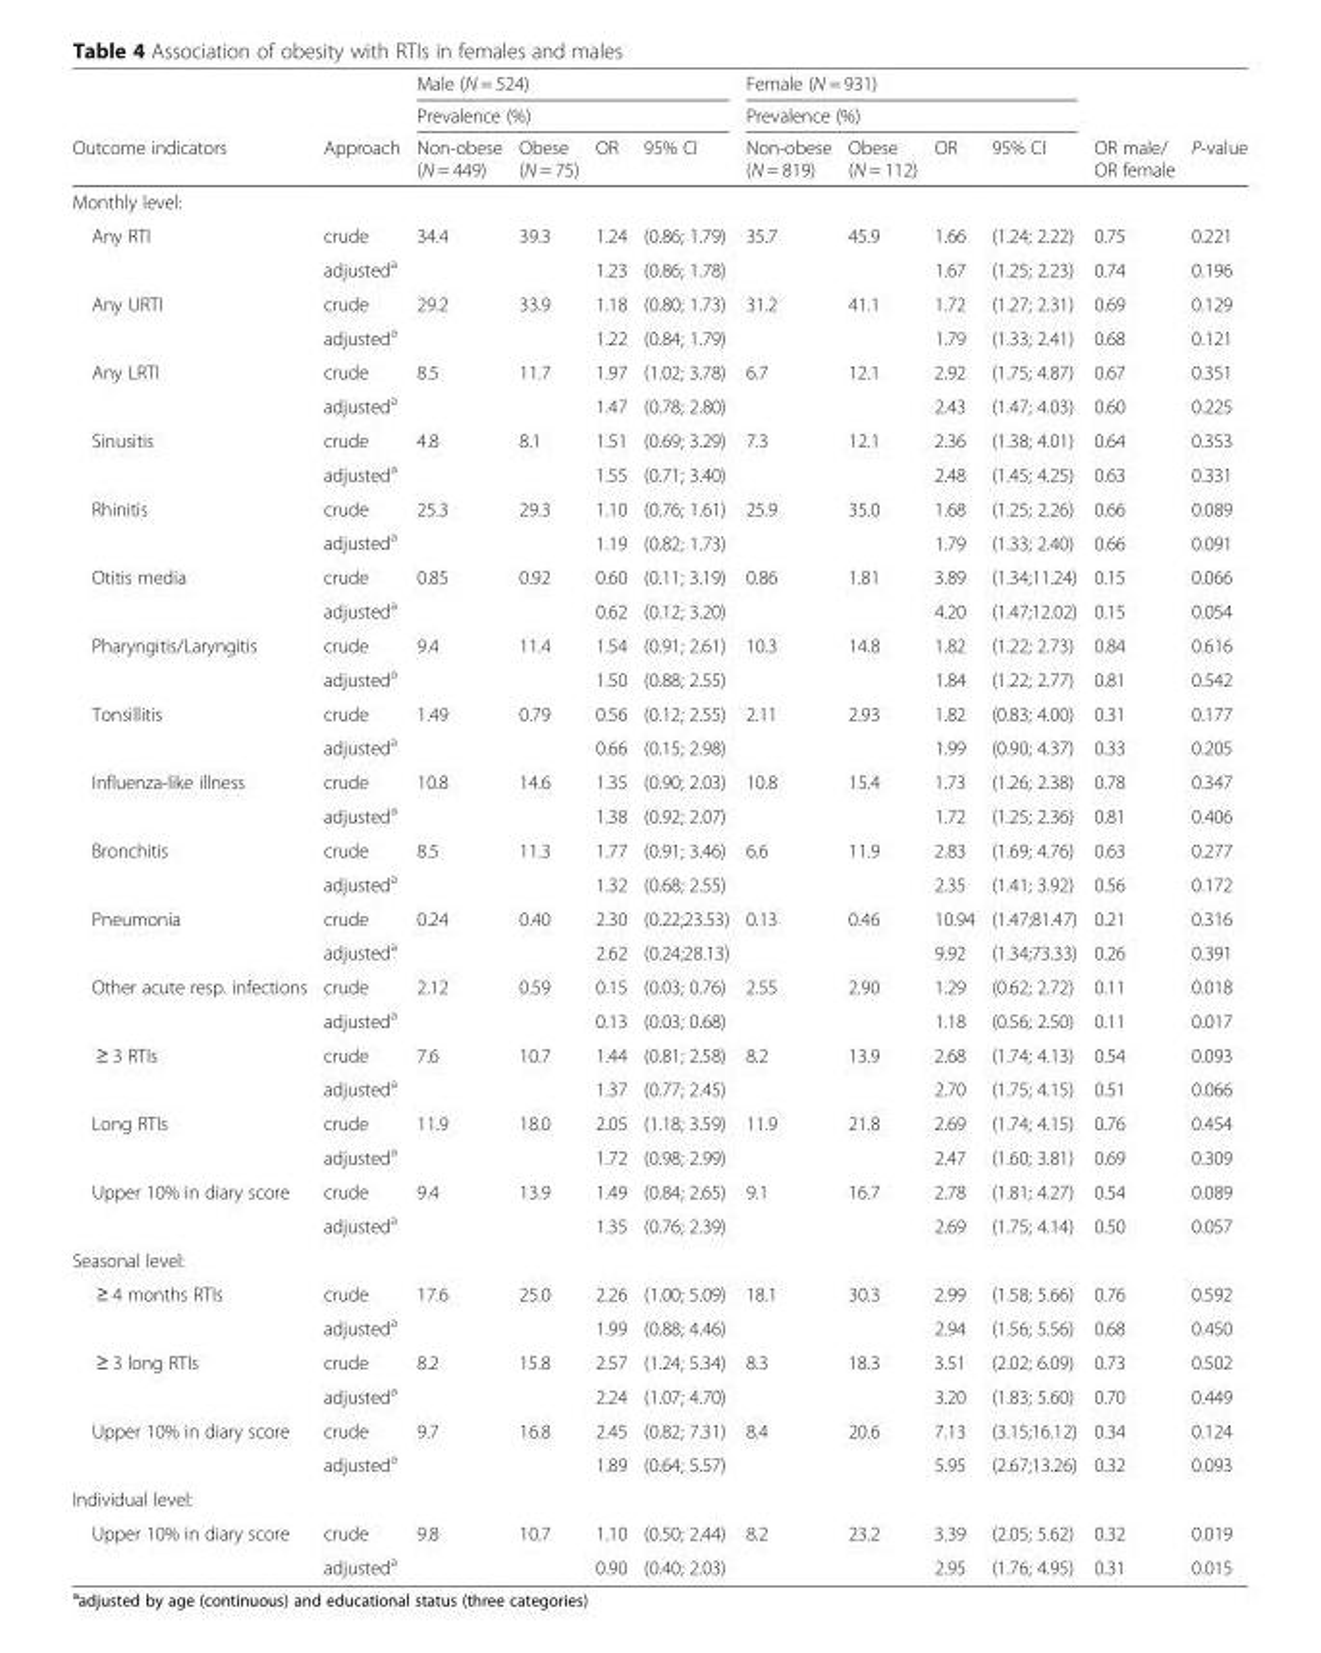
<table><thead><tr><td rowspan="3">Outcome indicators</td><td rowspan="3">Approach</td><td rowspan="2" colspan="4">Male (N = 524) Prevalence (%)</td><td rowspan="2" colspan="4">Female (N = 931) Prevalence (%)</td><td rowspan="3">OR male/ OR female</td><td rowspan="3">P-value</td></tr><tr></tr><tr><td>Non-obese (N = 449)</td><td>Obese (N = 75)</td><td>OR</td><td>95% CI</td><td>Non-obese (N = 819)</td><td>Obese (N = 112)</td><td>OR</td><td>95% CI</td></tr></thead><tbody><tr><td colspan="12">Monthly level:</td></tr><tr><td rowspan="2">Any RTI</td><td>crude</td><td>34.4</td><td>39.3</td><td>1.24</td><td>(0.86; 1.79)</td><td>35.7</td><td>45.9</td><td>1.66</td><td>(1.24; 2.22)</td><td>0.75</td><td>0.221</td></tr><tr><td>adjusted<sup>a</sup></td><td></td><td></td><td>1.23</td><td>(0.86; 1.78)</td><td></td><td></td><td>1.67</td><td>(1.25; 2.23)</td><td>0.74</td><td>0.196</td></tr><tr><td rowspan="2">Any URTI</td><td>crude</td><td>29.2</td><td>33.9</td><td>1.18</td><td>(0.80; 1.73)</td><td>31.2</td><td>41.1</td><td>1.72</td><td>(1.27; 2.31)</td><td>0.69</td><td>0.129</td></tr><tr><td>adjusted<sup>a</sup></td><td></td><td></td><td>1.22</td><td>(0.84; 1.79)</td><td></td><td></td><td>1.79</td><td>(1.33; 2.41)</td><td>0.68</td><td>0.121</td></tr><tr><td rowspan="2">Any LRTI</td><td>crude</td><td>8.5</td><td>11.7</td><td>1.97</td><td>(1.02; 3.78)</td><td>6.7</td><td>12.1</td><td>2.92</td><td>(1.75; 4.87)</td><td>0.67</td><td>0.351</td></tr><tr><td>adjusted<sup>a</sup></td><td></td><td></td><td>1.47</td><td>(0.78; 2.80)</td><td></td><td></td><td>2.43</td><td>(1.47; 4.03)</td><td>0.60</td><td>0.225</td></tr><tr><td rowspan="2">Sinusitis</td><td>crude</td><td>4.8</td><td>8.1</td><td>1.51</td><td>(0.69; 3.29)</td><td>7.3</td><td>12.1</td><td>2.36</td><td>(1.38; 4.01)</td><td>0.64</td><td>0.353</td></tr><tr><td>adjusted<sup>a</sup></td><td></td><td></td><td>1.55</td><td>(0.71; 3.40)</td><td></td><td></td><td>2.48</td><td>(1.45; 4.25)</td><td>0.63</td><td>0.331</td></tr><tr><td rowspan="2">Rhinitis</td><td>crude</td><td>25.3</td><td>29.3</td><td>1.10</td><td>(0.76; 1.61)</td><td>25.9</td><td>35.0</td><td>1.68</td><td>(1.25; 2.26)</td><td>0.66</td><td>0.089</td></tr><tr><td>adjusted<sup>a</sup></td><td></td><td></td><td>1.19</td><td>(0.82; 1.73)</td><td></td><td></td><td>1.79</td><td>(1.33; 2.40)</td><td>0.66</td><td>0.091</td></tr><tr><td rowspan="2">Otitis media</td><td>crude</td><td>0.85</td><td>0.92</td><td>0.60</td><td>(0.11; 3.19)</td><td>0.86</td><td>1.81</td><td>3.89</td><td>(1.34;11.24)</td><td>0.15</td><td>0.066</td></tr><tr><td>adjusted<sup>a</sup></td><td></td><td></td><td>0.62</td><td>(0.12; 3.20)</td><td></td><td></td><td>4.20</td><td>(1.47;12.02)</td><td>0.15</td><td>0.054</td></tr><tr><td rowspan="2">Pharyngitis/Laryngitis</td><td>crude</td><td>9.4</td><td>11.4</td><td>1.54</td><td>(0.91; 2.61)</td><td>10.3</td><td>14.8</td><td>1.82</td><td>(1.22; 2.73)</td><td>0.84</td><td>0.616</td></tr><tr><td>adjusted<sup>a</sup></td><td></td><td></td><td>1.50</td><td>(0.88; 2.55)</td><td></td><td></td><td>1.84</td><td>(1.22; 2.77)</td><td>0.81</td><td>0.542</td></tr><tr><td rowspan="2">Tonsillitis</td><td>crude</td><td>1.49</td><td>0.79</td><td>0.56</td><td>(0.12; 2.55)</td><td>2.11</td><td>2.93</td><td>1.82</td><td>(0.83; 4.00)</td><td>0.31</td><td>0.177</td></tr><tr><td>adjusted<sup>a</sup></td><td></td><td></td><td>0.66</td><td>(0.15; 2.98)</td><td></td><td></td><td>1.99</td><td>(0.90; 4.37)</td><td>0.33</td><td>0.205</td></tr><tr><td rowspan="2">Influenza-like illness</td><td>crude</td><td>10.8</td><td>14.6</td><td>1.35</td><td>(0.90; 2.03)</td><td>10.8</td><td>15.4</td><td>1.73</td><td>(1.26; 2.38)</td><td>0.78</td><td>0.347</td></tr><tr><td>adjusted<sup>a</sup></td><td></td><td></td><td>1.38</td><td>(0.92; 2.07)</td><td></td><td></td><td>1.72</td><td>(1.25; 2.36)</td><td>0.81</td><td>0.406</td></tr><tr><td rowspan="2">Bronchitis</td><td>crude</td><td>8.5</td><td>11.3</td><td>1.77</td><td>(0.91; 3.46)</td><td>6.6</td><td>11.9</td><td>2.83</td><td>(1.69; 4.76)</td><td>0.63</td><td>0.277</td></tr><tr><td>adjusted<sup>a</sup></td><td></td><td></td><td>1.32</td><td>(0.68; 2.55)</td><td></td><td></td><td>2.35</td><td>(1.41; 3.92)</td><td>0.56</td><td>0.172</td></tr><tr><td rowspan="2">Pneumonia</td><td>crude</td><td>0.24</td><td>0.40</td><td>2.30</td><td>(0.22;23.53)</td><td>0.13</td><td>0.46</td><td>10.94</td><td>(1.47;81.47)</td><td>0.21</td><td>0.316</td></tr><tr><td>adjusted<sup>a</sup></td><td></td><td></td><td>2.62</td><td>(0.24;28.13)</td><td></td><td></td><td>9.92</td><td>(1.34;73.33)</td><td>0.26</td><td>0.391</td></tr><tr><td rowspan="2">Other acute resp. infections</td><td>crude</td><td>2.12</td><td>0.59</td><td>0.15</td><td>(0.03; 0.76)</td><td>2.55</td><td>2.90</td><td>1.29</td><td>(0.62; 2.72)</td><td>0.11</td><td>0.018</td></tr><tr><td>adjusted<sup>a</sup></td><td></td><td></td><td>0.13</td><td>(0.03; 0.68)</td><td></td><td></td><td>1.18</td><td>(0.56; 2.50)</td><td>0.11</td><td>0.017</td></tr><tr><td rowspan="2">≥ 3 RTIs</td><td>crude</td><td>7.6</td><td>10.7</td><td>1.44</td><td>(0.81; 2.58)</td><td>8.2</td><td>13.9</td><td>2.68</td><td>(1.74; 4.13)</td><td>0.54</td><td>0.093</td></tr><tr><td>adjusted<sup>a</sup></td><td></td><td></td><td>1.37</td><td>(0.77; 2.45)</td><td></td><td></td><td>2.70</td><td>(1.75; 4.15)</td><td>0.51</td><td>0.066</td></tr><tr><td rowspan="2">Long RTIs</td><td>crude</td><td>11.9</td><td>18.0</td><td>2.05</td><td>(1.18; 3.59)</td><td>11.9</td><td>21.8</td><td>2.69</td><td>(1.74; 4.15)</td><td>0.76</td><td>0.454</td></tr><tr><td>adjusted<sup>a</sup></td><td></td><td></td><td>1.72</td><td>(0.98; 2.99)</td><td></td><td></td><td>2.47</td><td>(1.60; 3.81)</td><td>0.69</td><td>0.309</td></tr><tr><td rowspan="2">Upper 10% in diary score</td><td>crude</td><td>9.4</td><td>13.9</td><td>1.49</td><td>(0.84; 2.65)</td><td>9.1</td><td>16.7</td><td>2.78</td><td>(1.81; 4.27)</td><td>0.54</td><td>0.089</td></tr><tr><td>adjusted<sup>a</sup></td><td></td><td></td><td>1.35</td><td>(0.76; 2.39)</td><td></td><td></td><td>2.69</td><td>(1.75; 4.14)</td><td>0.50</td><td>0.057</td></tr><tr><td colspan="12">Seasonal level:</td></tr><tr><td rowspan="2">≥ 4 months RTIs</td><td>crude</td><td>17.6</td><td>25.0</td><td>2.26</td><td>(1.00; 5.09)</td><td>18.1</td><td>30.3</td><td>2.99</td><td>(1.58; 5.66)</td><td>0.76</td><td>0.592</td></tr><tr><td>adjusted<sup>a</sup></td><td></td><td></td><td>1.99</td><td>(0.88; 4.46)</td><td></td><td></td><td>2.94</td><td>(1.56; 5.56)</td><td>0.68</td><td>0.450</td></tr><tr><td rowspan="2">≥ 3 long RTIs</td><td>crude</td><td>8.2</td><td>15.8</td><td>2.57</td><td>(1.24; 5.34)</td><td>8.3</td><td>18.3</td><td>3.51</td><td>(2.02; 6.09)</td><td>0.73</td><td>0.502</td></tr><tr><td>adjusted<sup>a</sup></td><td></td><td></td><td>2.24</td><td>(1.07; 4.70)</td><td></td><td></td><td>3.20</td><td>(1.83; 5.60)</td><td>0.70</td><td>0.449</td></tr><tr><td rowspan="2">Upper 10% in diary score</td><td>crude</td><td>9.7</td><td>16.8</td><td>2.45</td><td>(0.82; 7.31)</td><td>8.4</td><td>20.6</td><td>7.13</td><td>(3.15;16.12)</td><td>0.34</td><td>0.124</td></tr><tr><td>adjusted<sup>a</sup></td><td></td><td></td><td>1.89</td><td>(0.64; 5.57)</td><td></td><td></td><td>5.95</td><td>(2.67;13.26)</td><td>0.32</td><td>0.093</td></tr><tr><td colspan="12">Individual level:</td></tr><tr><td rowspan="2">Upper 10% in diary score</td><td>crude</td><td>9.8</td><td>10.7</td><td>1.10</td><td>(0.50; 2.44)</td><td>8.2</td><td>23.2</td><td>3.39</td><td>(2.05; 5.62)</td><td>0.32</td><td>0.019</td></tr><tr><td>adjusted<sup>a</sup></td><td></td><td></td><td>0.90</td><td>(0.40; 2.03)</td><td></td><td></td><td>2.95</td><td>(1.76; 4.95)</td><td>0.31</td><td>0.015</td></tr></tbody></table>